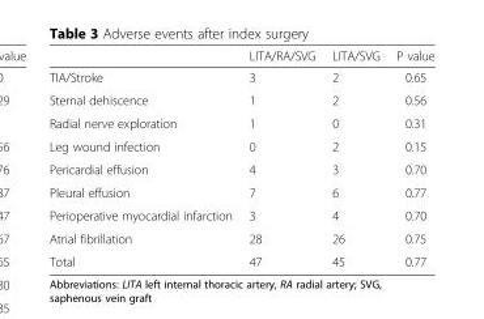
<table><thead><tr><td></td><td>LITA/RA/SVG</td><td>LITA/SVG</td><td>P value</td></tr></thead><tbody><tr><td>TIA/Stroke</td><td>3</td><td>2</td><td>0.65</td></tr><tr><td>Sternal dehiscence</td><td>1</td><td>2</td><td>0.56</td></tr><tr><td>Radial nerve exploration</td><td>1</td><td>0</td><td>0.31</td></tr><tr><td>Leg wound infection</td><td>0</td><td>2</td><td>0.15</td></tr><tr><td>Pericardial effusion</td><td>4</td><td>3</td><td>0.70</td></tr><tr><td>Pleural effusion</td><td>7</td><td>6</td><td>0.77</td></tr><tr><td>Perioperative myocardial infarction</td><td>3</td><td>4</td><td>0.70</td></tr><tr><td>Atrial fibrillation</td><td>28</td><td>26</td><td>0.75</td></tr><tr><td>Total</td><td>47</td><td>45</td><td>0.77</td></tr></tbody></table>